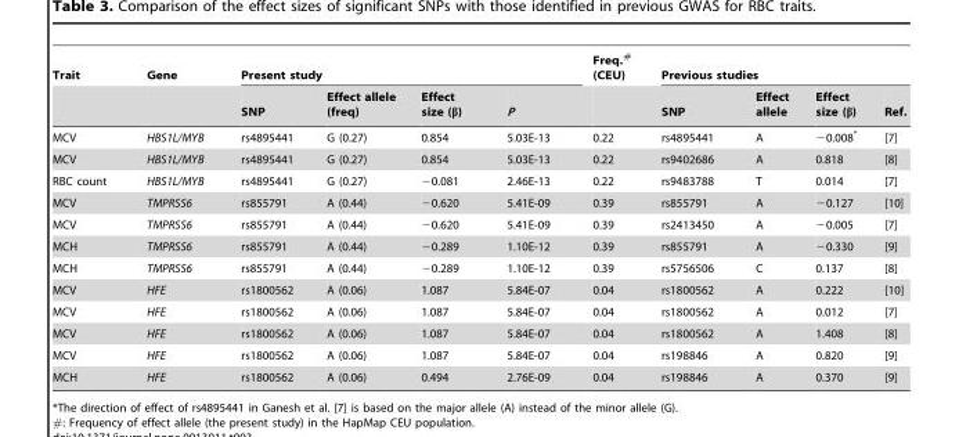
<table><thead><tr><td rowspan="2">Trait</td><td rowspan="2">Gene</td><td colspan="4">Present study</td><td rowspan="2">Freq.<sup>#</sup> (CEU)</td><td colspan="4">Previous studies</td></tr><tr><td>SNP</td><td>Effect allele (freq)</td><td>Effect size (β)</td><td>P</td><td>SNP</td><td>Effect allele</td><td>Effect size (β)</td><td>Ref.</td></tr></thead><tbody><tr><td>MCV</td><td>HBS1L/MYB</td><td>rs4895441</td><td>G (0.27)</td><td>0.854</td><td>5.03E-13</td><td>0.22</td><td>rs4895441</td><td>A</td><td>−0.008*</td><td>[7]</td></tr><tr><td>MCV</td><td>HBS1L/MYB</td><td>rs4895441</td><td>G (0.27)</td><td>0.854</td><td>5.03E-13</td><td>0.22</td><td>rs9402686</td><td>A</td><td>0.818</td><td>[8]</td></tr><tr><td>RBC count</td><td>HBS1L/MYB</td><td>rs4895441</td><td>G (0.27)</td><td>−0.081</td><td>2.46E-13</td><td>0.22</td><td>rs9483788</td><td>T</td><td>0.014</td><td>[7]</td></tr><tr><td>MCV</td><td>TMPRSS6</td><td>rs855791</td><td>A (0.44)</td><td>−0.620</td><td>5.41E-09</td><td>0.39</td><td>rs855791</td><td>A</td><td>−0.127</td><td>[10]</td></tr><tr><td>MCV</td><td>TMPRSS6</td><td>rs855791</td><td>A (0.44)</td><td>−0.620</td><td>5.41E-09</td><td>0.39</td><td>rs2413450</td><td>A</td><td>−0.005</td><td>[7]</td></tr><tr><td>MCH</td><td>TMPRSS6</td><td>rs855791</td><td>A (0.44)</td><td>−0.289</td><td>1.10E-12</td><td>0.39</td><td>rs855791</td><td>A</td><td>−0.330</td><td>[9]</td></tr><tr><td>MCH</td><td>TMPRSS6</td><td>rs855791</td><td>A (0.44)</td><td>−0.289</td><td>1.10E-12</td><td>0.39</td><td>rs5756506</td><td>C</td><td>0.137</td><td>[8]</td></tr><tr><td>MCV</td><td>HFE</td><td>rs1800562</td><td>A (0.06)</td><td>1.087</td><td>5.84E-07</td><td>0.04</td><td>rs1800562</td><td>A</td><td>0.222</td><td>[10]</td></tr><tr><td>MCV</td><td>HFE</td><td>rs1800562</td><td>A (0.06)</td><td>1.087</td><td>5.84E-07</td><td>0.04</td><td>rs1800562</td><td>A</td><td>0.012</td><td>[7]</td></tr><tr><td>MCV</td><td>HFE</td><td>rs1800562</td><td>A (0.06)</td><td>1.087</td><td>5.84E-07</td><td>0.04</td><td>rs1800562</td><td>A</td><td>1.408</td><td>[8]</td></tr><tr><td>MCV</td><td>HFE</td><td>rs1800562</td><td>A (0.06)</td><td>1.087</td><td>5.84E-07</td><td>0.04</td><td>rs198846</td><td>A</td><td>0.820</td><td>[9]</td></tr><tr><td>MCH</td><td>HFE</td><td>rs1800562</td><td>A (0.06)</td><td>0.494</td><td>2.76E-09</td><td>0.04</td><td>rs198846</td><td>A</td><td>0.370</td><td>[9]</td></tr></tbody></table>